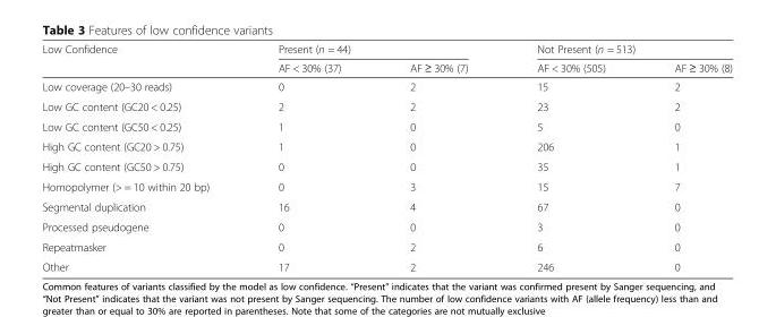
<table><thead><tr><td rowspan="2">Low Confidence</td><td colspan="2">Present (n = 44)</td><td colspan="2">Not Present (n = 513)</td></tr><tr><td>AF &lt; 30% (37)</td><td>AF ≥ 30% (7)</td><td>AF &lt; 30% (505)</td><td>AF ≥ 30% (8)</td></tr></thead><tbody><tr><td>Low coverage (20–30 reads)</td><td>0</td><td>2</td><td>15</td><td>2</td></tr><tr><td>Low GC content (GC20 &lt; 0.25)</td><td>2</td><td>2</td><td>23</td><td>2</td></tr><tr><td>Low GC content (GC50 &lt; 0.25)</td><td>1</td><td>0</td><td>5</td><td>0</td></tr><tr><td>High GC content (GC20 &gt; 0.75)</td><td>1</td><td>0</td><td>206</td><td>1</td></tr><tr><td>High GC content (GC50 &gt; 0.75)</td><td>0</td><td>0</td><td>35</td><td>1</td></tr><tr><td>Homopolymer (&gt; = 10 within 20 bp)</td><td>0</td><td>3</td><td>15</td><td>7</td></tr><tr><td>Segmental duplication</td><td>16</td><td>4</td><td>67</td><td>0</td></tr><tr><td>Processed pseudogene</td><td>0</td><td>0</td><td>3</td><td>0</td></tr><tr><td>Repeatmasker</td><td>0</td><td>2</td><td>6</td><td>0</td></tr><tr><td>Other</td><td>17</td><td>2</td><td>246</td><td>0</td></tr></tbody></table>